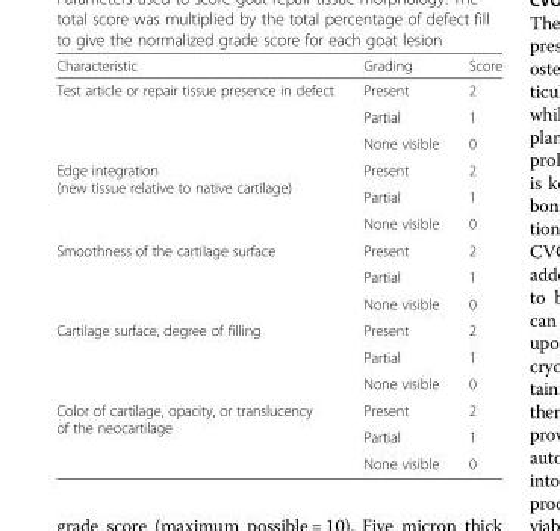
<table><thead><tr><td>Characteristic</td><td>Grading</td><td>Score</td></tr></thead><tbody><tr><td rowspan="3">Test article or repair tissue presence in defect</td><td>Present</td><td>2</td></tr><tr><td>Partial</td><td>1</td></tr><tr><td>None visible</td><td>0</td></tr><tr><td rowspan="3">Edge integration (new tissue relative to native cartilage)</td><td>Present</td><td>2</td></tr><tr><td>Partial</td><td>1</td></tr><tr><td>None visible</td><td>0</td></tr><tr><td rowspan="3">Smoothness of the cartilage surface</td><td>Present</td><td>2</td></tr><tr><td>Partial</td><td>1</td></tr><tr><td>None visible</td><td>0</td></tr><tr><td rowspan="3">Cartilage surface, degree of filling</td><td>Present</td><td>2</td></tr><tr><td>Partial</td><td>1</td></tr><tr><td>None visible</td><td>0</td></tr><tr><td rowspan="3">Color of cartilage, opacity, or translucency of the neocartilage</td><td>Present</td><td>2</td></tr><tr><td>Partial</td><td>1</td></tr><tr><td>None visible</td><td>0</td></tr></tbody></table>